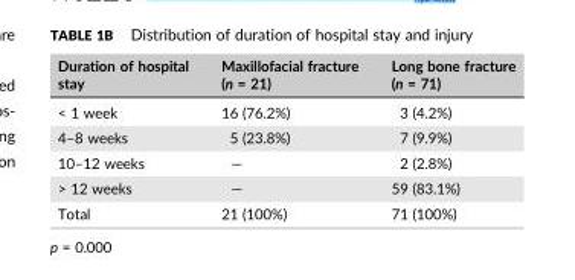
<table><thead><tr><td>Duration of hospital stay</td><td>Maxillofacial fracture (n = 21)</td><td>Long bone fracture (n = 71)</td></tr></thead><tbody><tr><td>&lt; 1 week</td><td>16 (76.2%)</td><td>3 (4.2%)</td></tr><tr><td>4–8 weeks</td><td>5 (23.8%)</td><td>7 (9.9%)</td></tr><tr><td>10–12 weeks</td><td>—</td><td>2 (2.8%)</td></tr><tr><td>&gt; 12 weeks</td><td>—</td><td>59 (83.1%)</td></tr><tr><td>Total</td><td>21 (100%)</td><td>71 (100%)</td></tr></tbody></table>